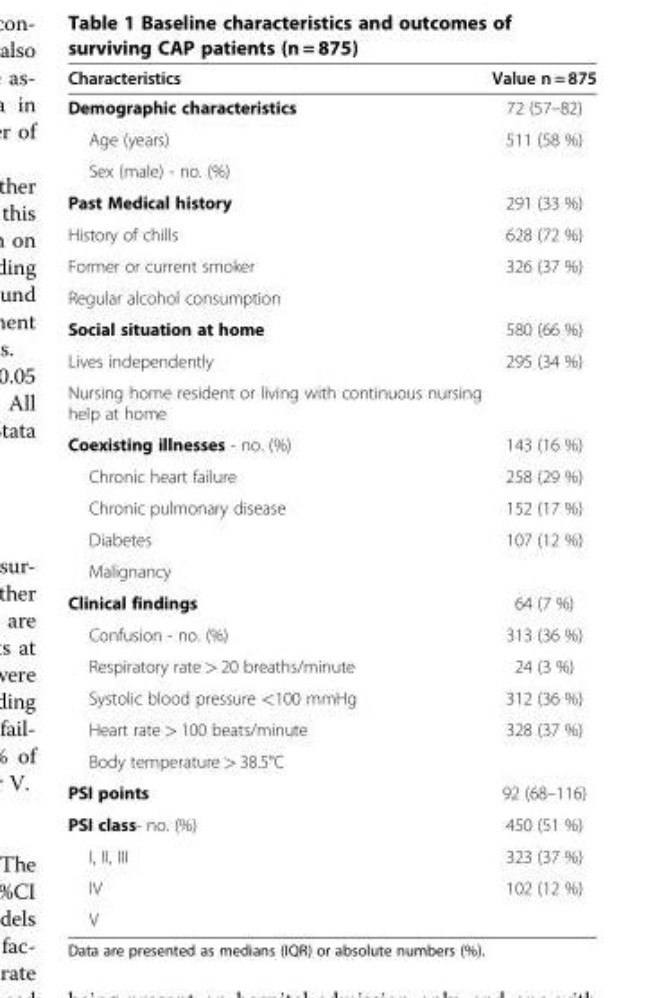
<table><thead><tr><td>Characteristics</td><td>Value n = 875</td></tr></thead><tbody><tr><td>Demographic characteristics</td><td>72 (57–82)</td></tr><tr><td>Age (years)</td><td>511 (58 %)</td></tr><tr><td colspan="2">Sex (male) - no. (%)</td></tr><tr><td>Past Medical history</td><td>291 (33 %)</td></tr><tr><td>History of chills</td><td>628 (72 %)</td></tr><tr><td>Former or current smoker</td><td>326 (37 %)</td></tr><tr><td colspan="2">Regular alcohol consumption</td></tr><tr><td>Social situation at home</td><td>580 (66 %)</td></tr><tr><td>Lives independently</td><td>295 (34 %)</td></tr><tr><td colspan="2">Nursing home resident or living with continuous nursing help at home</td></tr><tr><td>Coexisting illnesses - no. (%)</td><td>143 (16 %)</td></tr><tr><td>Chronic heart failure</td><td>258 (29 %)</td></tr><tr><td>Chronic pulmonary disease</td><td>152 (17 %)</td></tr><tr><td>Diabetes</td><td>107 (12 %)</td></tr><tr><td colspan="2">Malignancy</td></tr><tr><td>Clinical findings</td><td>64 (7 %)</td></tr><tr><td>Confusion - no. (%)</td><td>313 (36 %)</td></tr><tr><td>Respiratory rate &gt; 20 breaths/minute</td><td>24 (3 %)</td></tr><tr><td>Systolic blood pressure &lt;100 mmHg</td><td>312 (36 %)</td></tr><tr><td>Heart rate &gt; 100 beats/minute</td><td>328 (37 %)</td></tr><tr><td colspan="2">Body temperature &gt; 38.5°C</td></tr><tr><td>PSI points</td><td>92 (68–116)</td></tr><tr><td>PSI class- no. (%)</td><td>450 (51 %)</td></tr><tr><td>I, II, III</td><td>323 (37 %)</td></tr><tr><td>IV</td><td>102 (12 %)</td></tr><tr><td>V</td><td></td></tr></tbody></table>